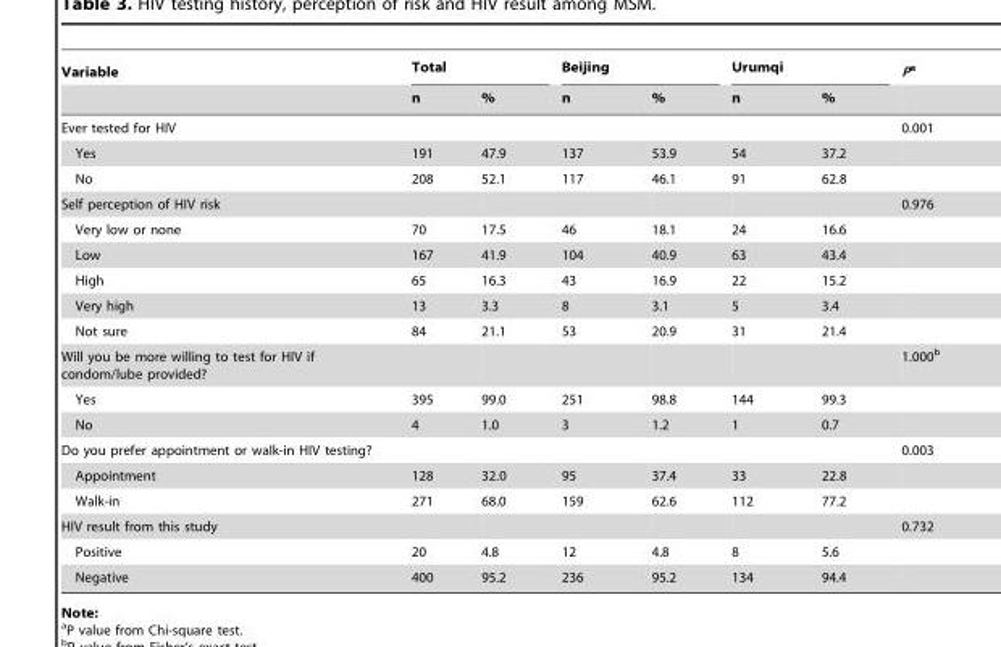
<table><thead><tr><td rowspan="2">Variable</td><td colspan="2">Total</td><td colspan="2">Beijing</td><td colspan="2">Urumqi</td><td rowspan="2">Pa</td></tr><tr><td>n</td><td>%</td><td>n</td><td>%</td><td>n</td><td>%</td></tr></thead><tbody><tr><td>Ever tested for HIV</td><td></td><td></td><td></td><td></td><td></td><td></td><td>0.001</td></tr><tr><td>Yes</td><td>191</td><td>47.9</td><td>137</td><td>53.9</td><td>54</td><td>37.2</td><td></td></tr><tr><td>No</td><td>208</td><td>52.1</td><td>117</td><td>46.1</td><td>91</td><td>62.8</td><td></td></tr><tr><td>Self perception of HIV risk</td><td></td><td></td><td></td><td></td><td></td><td></td><td>0.976</td></tr><tr><td>Very low or none</td><td>70</td><td>17.5</td><td>46</td><td>18.1</td><td>24</td><td>16.6</td><td></td></tr><tr><td>Low</td><td>167</td><td>41.9</td><td>104</td><td>40.9</td><td>63</td><td>43.4</td><td></td></tr><tr><td>High</td><td>65</td><td>16.3</td><td>43</td><td>16.9</td><td>22</td><td>15.2</td><td></td></tr><tr><td>Very high</td><td>13</td><td>3.3</td><td>8</td><td>3.1</td><td>5</td><td>3.4</td><td></td></tr><tr><td>Not sure</td><td>84</td><td>21.1</td><td>53</td><td>20.9</td><td>31</td><td>21.4</td><td></td></tr><tr><td>Will you be more willing to test for HIV if condom/lube provided?</td><td></td><td></td><td></td><td></td><td></td><td></td><td>1.000<sup>b</sup></td></tr><tr><td>Yes</td><td>395</td><td>99.0</td><td>251</td><td>98.8</td><td>144</td><td>99.3</td><td></td></tr><tr><td>No</td><td>4</td><td>1.0</td><td>3</td><td>1.2</td><td>1</td><td>0.7</td><td></td></tr><tr><td>Do you prefer appointment or walk-in HIV testing?</td><td></td><td></td><td></td><td></td><td></td><td></td><td>0.003</td></tr><tr><td>Appointment</td><td>128</td><td>32.0</td><td>95</td><td>37.4</td><td>33</td><td>22.8</td><td></td></tr><tr><td>Walk-in</td><td>271</td><td>68.0</td><td>159</td><td>62.6</td><td>112</td><td>77.2</td><td></td></tr><tr><td>HIV result from this study</td><td></td><td></td><td></td><td></td><td></td><td></td><td>0.732</td></tr><tr><td>Positive</td><td>20</td><td>4.8</td><td>12</td><td>4.8</td><td>8</td><td>5.6</td><td></td></tr><tr><td>Negative</td><td>400</td><td>95.2</td><td>236</td><td>95.2</td><td>134</td><td>94.4</td><td></td></tr></tbody></table>